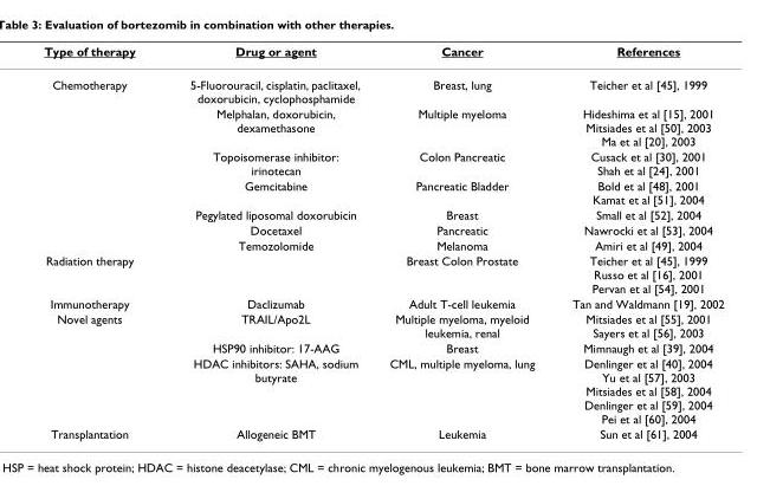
<table><thead><tr><td>Type of therapy</td><td>Drug or agent</td><td>Cancer</td><td>References</td></tr></thead><tbody><tr><td rowspan="7">Chemotherapy</td><td>5-Fluorouracil, cisplatin, paclitaxel, doxorubicin, cyclophosphamide</td><td>Breast, lung</td><td>Teicher et al [45], 1999</td></tr><tr><td>Melphalan, doxorubicin, dexamethasone</td><td>Multiple myeloma</td><td>Hideshima et al [15], 2001 Mitsiades et al [50], 2003 Ma et al [20], 2003</td></tr><tr><td>Topoisomerase inhibitor: irinotecan</td><td>Colon Pancreatic</td><td>Cusack et al [30], 2001 Shah et al [24], 2001</td></tr><tr><td>Gemcitabine</td><td>Pancreatic Bladder</td><td>Bold et al [48], 2001 Kamat et al [51], 2004</td></tr><tr><td>Pegylated liposomal doxorubicin</td><td>Breast</td><td>Small et al [52], 2004</td></tr><tr><td>Docetaxel</td><td>Pancreatic</td><td>Nawrocki et al [53], 2004</td></tr><tr><td>Temozolomide</td><td>Melanoma</td><td>Amiri et al [49], 2004</td></tr><tr><td>Radiation therapy</td><td></td><td>Breast Colon Prostate</td><td>Teicher et al [45], 1999 Russo et al [16], 2001 Pervan et al [54], 2001</td></tr><tr><td>Immunotherapy</td><td>Daclizumab</td><td>Adult T-cell leukemia</td><td>Tan and Waldmann [19], 2002</td></tr><tr><td rowspan="3">Novel agents</td><td>TRAIL/Apo2L</td><td>Multiple myeloma, myeloid leukemia, renal</td><td>Mitsiades et al [55], 2001 Sayers et al [56], 2003</td></tr><tr><td>HSP90 inhibitor: 17-AAG</td><td>Breast</td><td>Mimnaugh et al [39], 2004</td></tr><tr><td>HDAC inhibitors: SAHA, sodium butyrate</td><td>CML, multiple myeloma, lung</td><td>Denlinger et al [40], 2004 Yu et al [57], 2003 Mitsiades et al [58], 2004 Denlinger et al [59], 2004 Pei et al [60], 2004</td></tr><tr><td>Transplantation</td><td>Allogeneic BMT</td><td>Leukemia</td><td>Sun et al [61], 2004</td></tr></tbody></table>